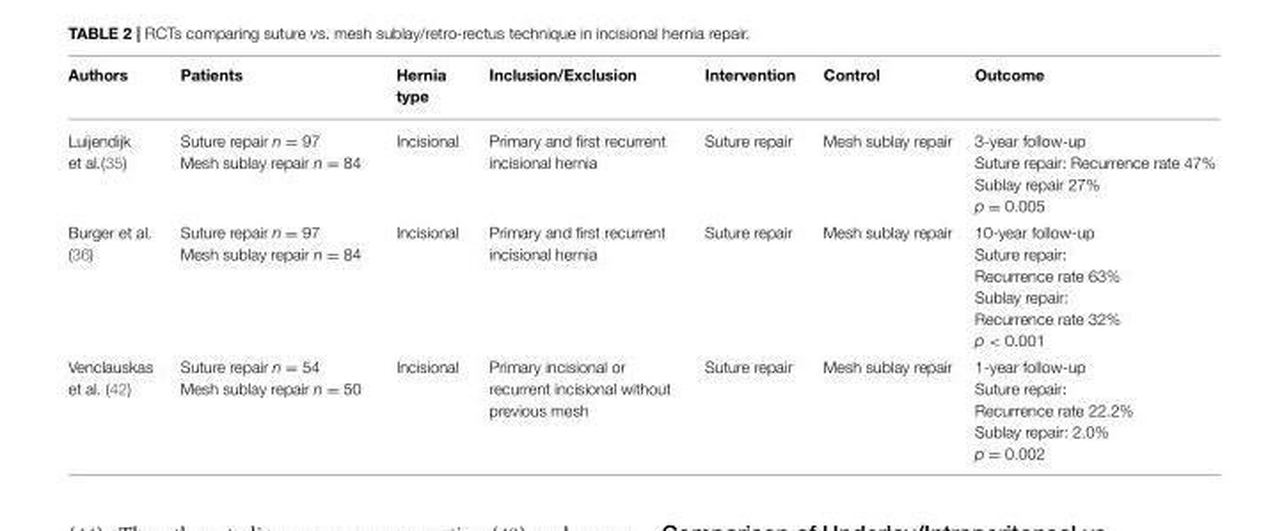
<table><thead><tr><td>Authors</td><td>Patients</td><td>Hernia type</td><td>Inclusion/Exclusion</td><td>Intervention</td><td>Control</td><td>Outcome</td></tr></thead><tbody><tr><td>Luijendijk et al.(35)</td><td>Suture repair n = 97 Mesh sublay repair n = 84</td><td>Incisional</td><td>Primary and first recurrent incisional hernia</td><td>Suture repair</td><td>Mesh sublay repair</td><td>3-year follow-up Suture repair: Recurrence rate 47% Sublay repair 27% p = 0.005</td></tr><tr><td>Burger et al. (36)</td><td>Suture repair n = 97 Mesh sublay repair n = 84</td><td>Incisional</td><td>Primary and first recurrent incisional hernia</td><td>Suture repair</td><td>Mesh sublay repair</td><td>10-year follow-up Suture repair: Recurrence rate 63% Sublay repair: Recurrence rate 32% p &lt; 0.001</td></tr><tr><td>Venclauskas et al. (42)</td><td>Suture repair n = 54 Mesh sublay repair n = 50</td><td>Incisional</td><td>Primary incisional or recurrent incisional without previous mesh</td><td>Suture repair</td><td>Mesh sublay repair</td><td>1-year follow-up Suture repair: Recurrence rate 22.2% Sublay repair: 2.0% p = 0.002</td></tr></tbody></table>